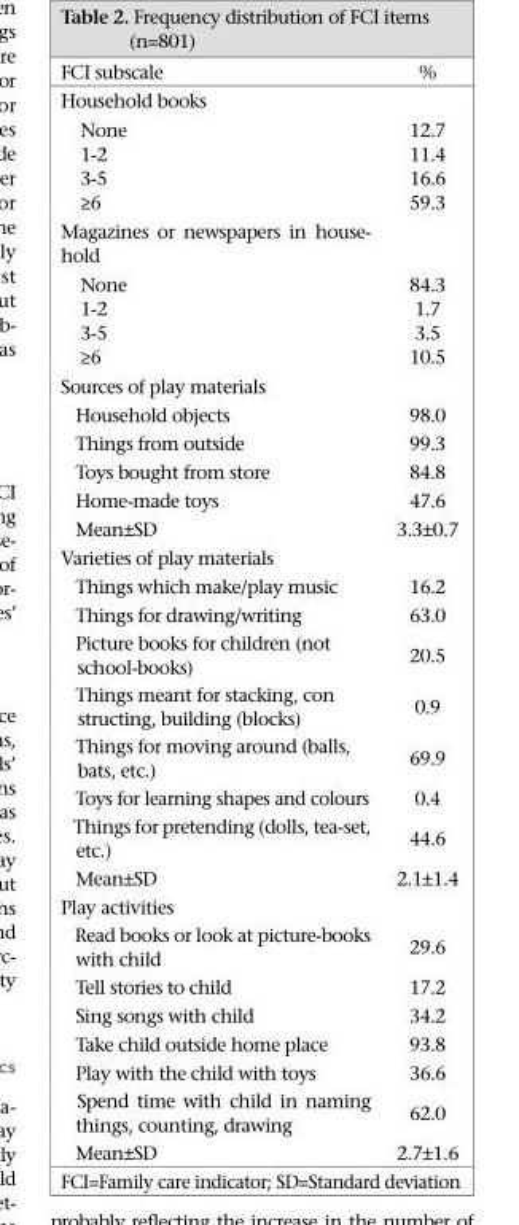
<table><thead><tr><td>FCI subscale</td><td>%</td></tr></thead><tbody><tr><td colspan="2">Household books</td></tr><tr><td>None</td><td>12.7</td></tr><tr><td>1-2</td><td>11.4</td></tr><tr><td>3-5</td><td>16.6</td></tr><tr><td>≥6</td><td>59.3</td></tr><tr><td colspan="2">Magazines or newspapers in house- hold</td></tr><tr><td>None</td><td>84.3</td></tr><tr><td>1-2</td><td>1.7</td></tr><tr><td>3-5</td><td>3.5</td></tr><tr><td>≥6</td><td>10.5</td></tr><tr><td colspan="2">Sources of play materials</td></tr><tr><td>Household objects</td><td>98.0</td></tr><tr><td>Things from outside</td><td>99.3</td></tr><tr><td>Toys bought from store</td><td>84.8</td></tr><tr><td>Home-made toys</td><td>47.6</td></tr><tr><td>Mean±SD</td><td>3.3±0.7</td></tr><tr><td colspan="2">Varieties of play materials</td></tr><tr><td>Things which make/play music</td><td>16.2</td></tr><tr><td>Things for drawing/writing</td><td>63.0</td></tr><tr><td>Picture books for children (not school-books)</td><td>20.5</td></tr><tr><td>Things meant for stacking, con structing, building (blocks)</td><td>0.9</td></tr><tr><td>Things for moving around (balls, bats, etc.)</td><td>69.9</td></tr><tr><td>Toys for learning shapes and colours</td><td>0.4</td></tr><tr><td>Things for pretending (dolls, tea-set, etc.)</td><td>44.6</td></tr><tr><td>Mean±SD</td><td>2.1±1.4</td></tr><tr><td colspan="2">Play activities</td></tr><tr><td>Read books or look at picture-books with child</td><td>29.6</td></tr><tr><td>Tell stories to child</td><td>17.2</td></tr><tr><td>Sing songs with child</td><td>34.2</td></tr><tr><td>Take child outside home place</td><td>93.8</td></tr><tr><td>Play with the child with toys</td><td>36.6</td></tr><tr><td>Spend time with child in naming things, counting, drawing</td><td>62.0</td></tr><tr><td>Mean±SD</td><td>2.7±1.6</td></tr></tbody></table>